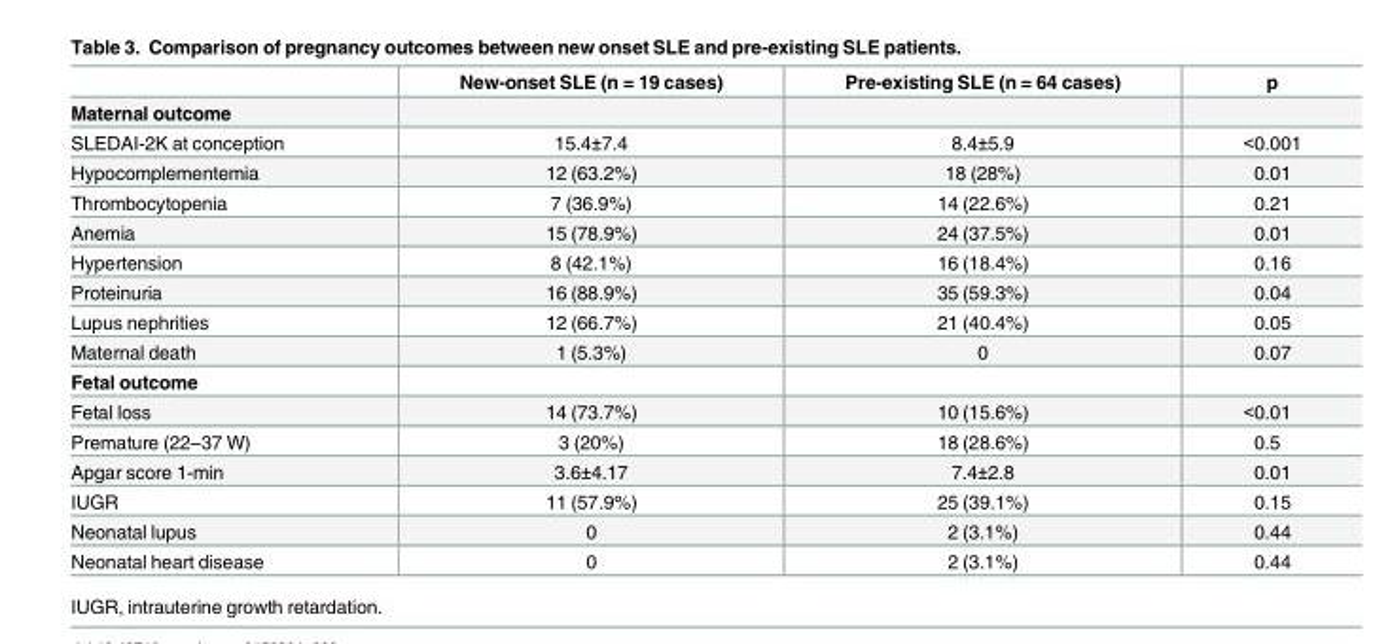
<table><thead><tr><td></td><td>New-onset SLE (n = 19 cases)</td><td>Pre-existing SLE (n = 64 cases)</td><td>p</td></tr></thead><tbody><tr><td colspan="4">Maternal outcome</td></tr><tr><td>SLEDAI-2K at conception</td><td>15.4±7.4</td><td>8.4±5.9</td><td>&lt;0.001</td></tr><tr><td>Hypocomplementemia</td><td>12 (63.2%)</td><td>18 (28%)</td><td>0.01</td></tr><tr><td>Thrombocytopenia</td><td>7 (36.9%)</td><td>14 (22.6%)</td><td>0.21</td></tr><tr><td>Anemia</td><td>15 (78.9%)</td><td>24 (37.5%)</td><td>0.01</td></tr><tr><td>Hypertension</td><td>8 (42.1%)</td><td>16 (18.4%)</td><td>0.16</td></tr><tr><td>Proteinuria</td><td>16 (88.9%)</td><td>35 (59.3%)</td><td>0.04</td></tr><tr><td>Lupus nephrities</td><td>12 (66.7%)</td><td>21 (40.4%)</td><td>0.05</td></tr><tr><td>Maternal death</td><td>1 (5.3%)</td><td>0</td><td>0.07</td></tr><tr><td colspan="4">Fetal outcome</td></tr><tr><td>Fetal loss</td><td>14 (73.7%)</td><td>10 (15.6%)</td><td>&lt;0.01</td></tr><tr><td>Premature (22–37 W)</td><td>3 (20%)</td><td>18 (28.6%)</td><td>0.5</td></tr><tr><td>Apgar score 1-min</td><td>3.6±4.17</td><td>7.4±2.8</td><td>0.01</td></tr><tr><td>IUGR</td><td>11 (57.9%)</td><td>25 (39.1%)</td><td>0.15</td></tr><tr><td>Neonatal lupus</td><td>0</td><td>2 (3.1%)</td><td>0.44</td></tr><tr><td>Neonatal heart disease</td><td>0</td><td>2 (3.1%)</td><td>0.44</td></tr></tbody></table>